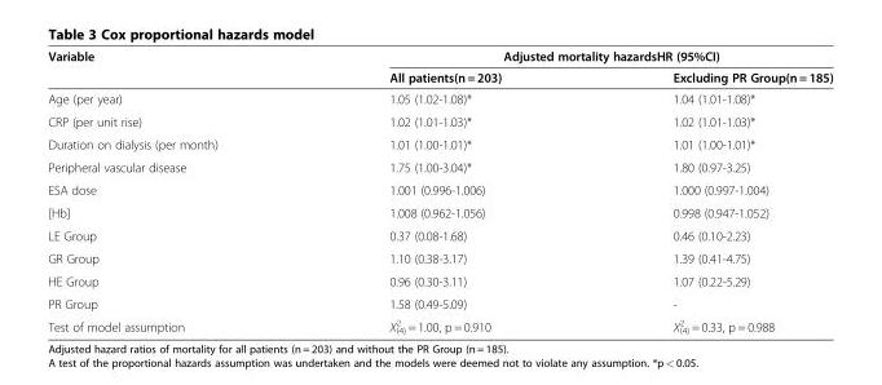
<table><thead><tr><td rowspan="2">Variable</td><td colspan="2">Adjusted mortality hazardsHR (95%CI)</td></tr><tr><td>All patients(n = 203)</td><td>Excluding PR Group(n = 185)</td></tr></thead><tbody><tr><td>Age (per year)</td><td>1.05 (1.02-1.08)*</td><td>1.04 (1.01-1.08)*</td></tr><tr><td>CRP (per unit rise)</td><td>1.02 (1.01-1.03)*</td><td>1.02 (1.01-1.03)*</td></tr><tr><td>Duration on dialysis (per month)</td><td>1.01 (1.00-1.01)*</td><td>1.01 (1.00-1.01)*</td></tr><tr><td>Peripheral vascular disease</td><td>1.75 (1.00-3.04)*</td><td>1.80 (0.97-3.25)</td></tr><tr><td>ESA dose</td><td>1.001 (0.996-1.006)</td><td>1.000 (0.997-1.004)</td></tr><tr><td>[Hb]</td><td>1.008 (0.962-1.056)</td><td>0.998 (0.947-1.052)</td></tr><tr><td>LE Group</td><td>0.37 (0.08-1.68)</td><td>0.46 (0.10-2.23)</td></tr><tr><td>GR Group</td><td>1.10 (0.38-3.17)</td><td>1.39 (0.41-4.75)</td></tr><tr><td>HE Group</td><td>0.96 (0.30-3.11)</td><td>1.07 (0.22-5.29)</td></tr><tr><td>PR Group</td><td>1.58 (0.49-5.09)</td><td>-</td></tr><tr><td>Test of model assumption</td><td>X<sub>(4)</sub> <sup>2</sup> = 1.00, p = 0.910</td><td>X<sub>(4)</sub> <sup>2</sup> = 0.33, p = 0.988</td></tr></tbody></table>